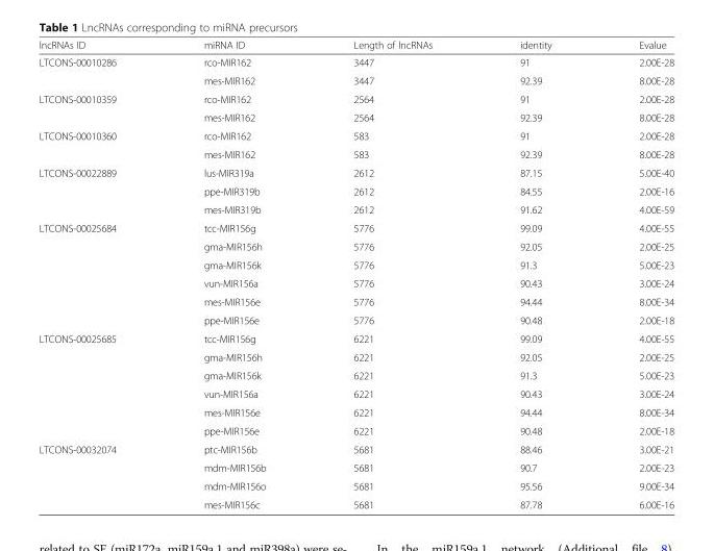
<table><thead><tr><td>lncRNAs ID</td><td>miRNA ID</td><td>Length of lncRNAs</td><td>identity</td><td>Evalue</td></tr></thead><tbody><tr><td rowspan="2">LTCONS-00010286</td><td>rco-MIR162</td><td>3447</td><td>91</td><td>2.00E-28</td></tr><tr><td>mes-MIR162</td><td>3447</td><td>92.39</td><td>8.00E-28</td></tr><tr><td rowspan="2">LTCONS-00010359</td><td>rco-MIR162</td><td>2564</td><td>91</td><td>2.00E-28</td></tr><tr><td>mes-MIR162</td><td>2564</td><td>92.39</td><td>8.00E-28</td></tr><tr><td rowspan="2">LTCONS-00010360</td><td>rco-MIR162</td><td>583</td><td>91</td><td>2.00E-28</td></tr><tr><td>mes-MIR162</td><td>583</td><td>92.39</td><td>8.00E-28</td></tr><tr><td rowspan="3">LTCONS-00022889</td><td>lus-MIR319a</td><td>2612</td><td>87.15</td><td>5.00E-40</td></tr><tr><td>ppe-MIR319b</td><td>2612</td><td>84.55</td><td>2.00E-16</td></tr><tr><td>mes-MIR319b</td><td>2612</td><td>91.62</td><td>4.00E-59</td></tr><tr><td rowspan="6">LTCONS-00025684</td><td>tcc-MIR156g</td><td>5776</td><td>99.09</td><td>4.00E-55</td></tr><tr><td>gma-MIR156h</td><td>5776</td><td>92.05</td><td>2.00E-25</td></tr><tr><td>gma-MIR156k</td><td>5776</td><td>91.3</td><td>5.00E-23</td></tr><tr><td>vun-MIR156a</td><td>5776</td><td>90.43</td><td>3.00E-24</td></tr><tr><td>mes-MIR156e</td><td>5776</td><td>94.44</td><td>8.00E-34</td></tr><tr><td>ppe-MIR156e</td><td>5776</td><td>90.48</td><td>2.00E-18</td></tr><tr><td rowspan="6">LTCONS-00025685</td><td>tcc-MIR156g</td><td>6221</td><td>99.09</td><td>4.00E-55</td></tr><tr><td>gma-MIR156h</td><td>6221</td><td>92.05</td><td>2.00E-25</td></tr><tr><td>gma-MIR156k</td><td>6221</td><td>91.3</td><td>5.00E-23</td></tr><tr><td>vun-MIR156a</td><td>6221</td><td>90.43</td><td>3.00E-24</td></tr><tr><td>mes-MIR156e</td><td>6221</td><td>94.44</td><td>8.00E-34</td></tr><tr><td>ppe-MIR156e</td><td>6221</td><td>90.48</td><td>2.00E-18</td></tr><tr><td rowspan="4">LTCONS-00032074</td><td>ptc-MIR156b</td><td>5681</td><td>88.46</td><td>3.00E-21</td></tr><tr><td>mdm-MIR156b</td><td>5681</td><td>90.7</td><td>2.00E-23</td></tr><tr><td>mdm-MIR156o</td><td>5681</td><td>95.56</td><td>9.00E-34</td></tr><tr><td>mes-MIR156c</td><td>5681</td><td>87.78</td><td>6.00E-16</td></tr></tbody></table>